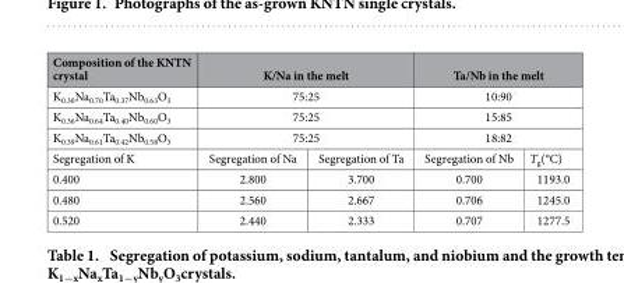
<table><thead><tr><td>Composition of the KNTN crystal</td><td colspan="2">K/Na in the melt</td><td colspan="2">Ta/Nb in the melt</td></tr></thead><tbody><tr><td>K<sub>0.30</sub>Na<sub>0.70</sub>Ta<sub>0.37</sub>Nb<sub>0.63</sub>O<sub>3</sub></td><td colspan="2">75:25</td><td colspan="2">10:90</td></tr><tr><td>K<sub>0.36</sub>Na<sub>0.64</sub>Ta<sub>0.40</sub>Nb<sub>0.60</sub>O<sub>3</sub></td><td colspan="2">75:25</td><td colspan="2">15:85</td></tr><tr><td>K<sub>0.39</sub>Na<sub>0.61</sub>Ta<sub>0.42</sub>Nb<sub>0.58</sub>O<sub>3</sub></td><td colspan="2">75:25</td><td colspan="2">18:82</td></tr><tr><td>Segregation of K</td><td>Segregation of Na</td><td>Segregation of Ta</td><td>Segregation of Nb</td><td>T<sub>g</sub>(°C)</td></tr><tr><td>0.400</td><td>2.800</td><td>3.700</td><td>0.700</td><td>1193.0</td></tr><tr><td>0.480</td><td>2.560</td><td>2.667</td><td>0.706</td><td>1245.0</td></tr><tr><td>0.520</td><td>2.440</td><td>2.333</td><td>0.707</td><td>1277.5</td></tr></tbody></table>